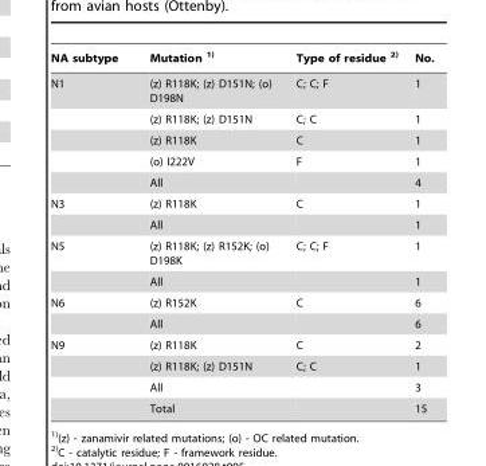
<table><thead><tr><td>NA subtype</td><td>Mutation 1)</td><td>Type of residue 2)</td><td>No.</td></tr></thead><tbody><tr><td rowspan="5">N1</td><td>(z) R118K; (z) D151N; (o) D198N</td><td>C; C; F</td><td>1</td></tr><tr><td>(z) R118K; (z) D151N</td><td>C; C</td><td>1</td></tr><tr><td>(z) R118K</td><td>C</td><td>1</td></tr><tr><td>(o) I222V</td><td>F</td><td>1</td></tr><tr><td>All</td><td></td><td>4</td></tr><tr><td rowspan="2">N3</td><td>(z) R118K</td><td>C</td><td>1</td></tr><tr><td>All</td><td></td><td>1</td></tr><tr><td rowspan="2">N5</td><td>(z) R118K; (z) R152K; (o) D198K</td><td>C; C; F</td><td>1</td></tr><tr><td>All</td><td></td><td>1</td></tr><tr><td rowspan="2">N6</td><td>(z) R152K</td><td>C</td><td>6</td></tr><tr><td>All</td><td></td><td>6</td></tr><tr><td rowspan="4">N9</td><td>(z) R118K</td><td>C</td><td>2</td></tr><tr><td>(z) R118K; (z) D151N</td><td>C; C</td><td>1</td></tr><tr><td>All</td><td></td><td>3</td></tr><tr><td>Total</td><td></td><td>15</td></tr></tbody></table>